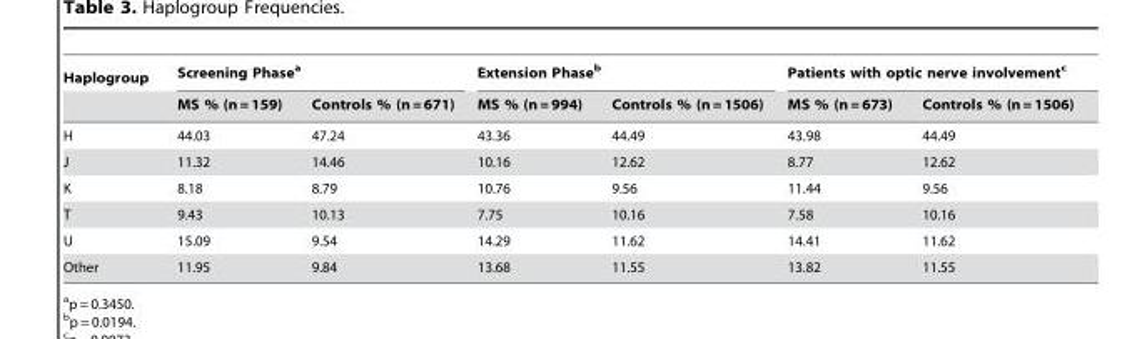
<table><thead><tr><td rowspan="2">Haplogroup</td><td colspan="2">Screening Phase<sup>a</sup></td><td colspan="2">Extension Phase<sup>b</sup></td><td colspan="2">Patients with optic nerve involvement<sup>c</sup></td></tr><tr><td>MS % (n = 159)</td><td>Controls % (n = 671)</td><td>MS % (n = 994)</td><td>Controls % (n = 1506)</td><td>MS % (n = 673)</td><td>Controls % (n = 1506)</td></tr></thead><tbody><tr><td>H</td><td>44.03</td><td>47.24</td><td>43.36</td><td>44.49</td><td>43.98</td><td>44.49</td></tr><tr><td>J</td><td>11.32</td><td>14.46</td><td>10.16</td><td>12.62</td><td>8.77</td><td>12.62</td></tr><tr><td>K</td><td>8.18</td><td>8.79</td><td>10.76</td><td>9.56</td><td>11.44</td><td>9.56</td></tr><tr><td>T</td><td>9.43</td><td>10.13</td><td>7.75</td><td>10.16</td><td>7.58</td><td>10.16</td></tr><tr><td>U</td><td>15.09</td><td>9.54</td><td>14.29</td><td>11.62</td><td>14.41</td><td>11.62</td></tr><tr><td>Other</td><td>11.95</td><td>9.84</td><td>13.68</td><td>11.55</td><td>13.82</td><td>11.55</td></tr></tbody></table>